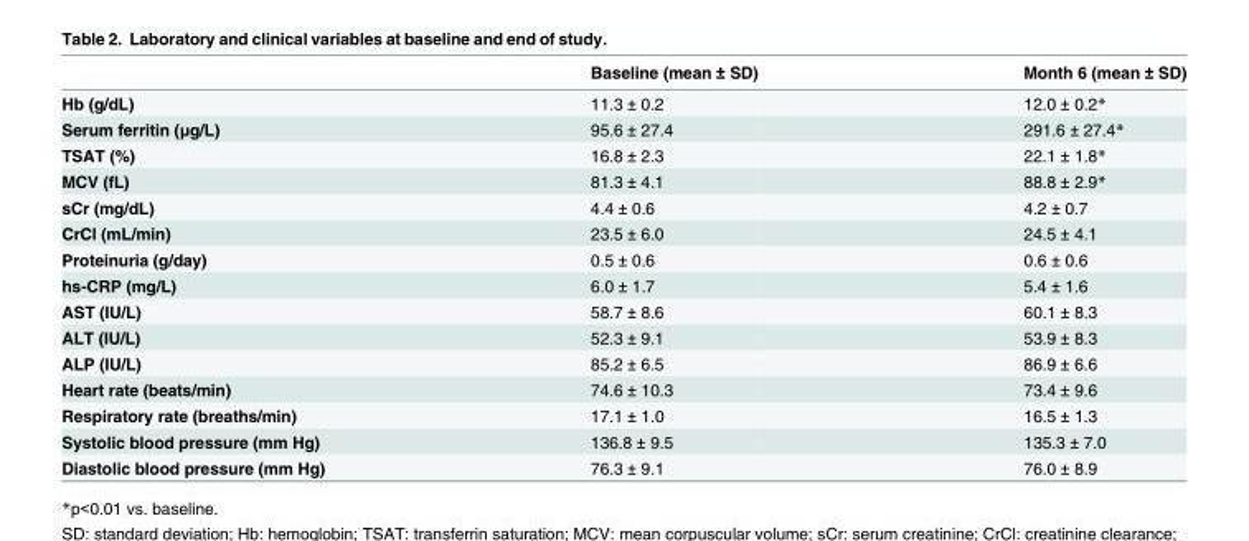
<table><thead><tr><td></td><td>Baseline (mean ± SD)</td><td>Month 6 (mean ± SD)</td></tr></thead><tbody><tr><td>Hb (g/dL)</td><td>11.3 ± 0.2</td><td>12.0 ± 0.2*</td></tr><tr><td>Serum ferritin (μg/L)</td><td>95.6 ± 27.4</td><td>291.6 ± 27.4*</td></tr><tr><td>TSAT (%)</td><td>16.8 ± 2.3</td><td>22.1 ± 1.8*</td></tr><tr><td>MCV (fL)</td><td>81.3 ± 4.1</td><td>88.8 ± 2.9*</td></tr><tr><td>sCr (mg/dL)</td><td>4.4 ± 0.6</td><td>4.2 ± 0.7</td></tr><tr><td>CrCl (mL/min)</td><td>23.5 ± 6.0</td><td>24.5 ± 4.1</td></tr><tr><td>Proteinuria (g/day)</td><td>0.5 ± 0.6</td><td>0.6 ± 0.6</td></tr><tr><td>hs-CRP (mg/L)</td><td>6.0 ± 1.7</td><td>5.4 ± 1.6</td></tr><tr><td>AST (IU/L)</td><td>58.7 ± 8.6</td><td>60.1 ± 8.3</td></tr><tr><td>ALT (IU/L)</td><td>52.3 ± 9.1</td><td>53.9 ± 8.3</td></tr><tr><td>ALP (IU/L)</td><td>85.2 ± 6.5</td><td>86.9 ± 6.6</td></tr><tr><td>Heart rate (beats/min)</td><td>74.6 ± 10.3</td><td>73.4 ± 9.6</td></tr><tr><td>Respiratory rate (breaths/min)</td><td>17.1 ± 1.0</td><td>16.5 ± 1.3</td></tr><tr><td>Systolic blood pressure (mm Hg)</td><td>136.8 ± 9.5</td><td>135.3 ± 7.0</td></tr><tr><td>Diastolic blood pressure (mm Hg)</td><td>76.3 ± 9.1</td><td>76.0 ± 8.9</td></tr></tbody></table>